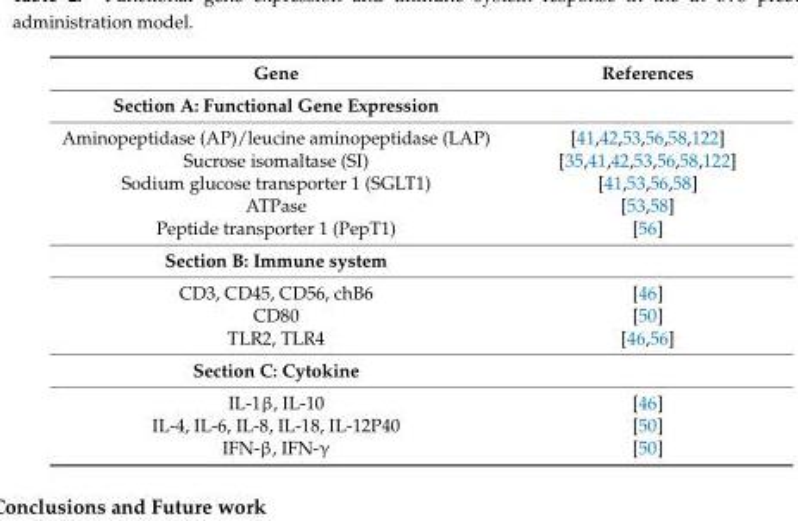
<table><thead><tr><td>Gene</td><td>References</td></tr></thead><tbody><tr><td colspan="2">Section A: Functional Gene Expression</td></tr><tr><td>Aminopeptidase (AP)/leucine aminopeptidase (LAP)</td><td>[41,42,53,56,58,122]</td></tr><tr><td>Sucrose isomaltase (SI)</td><td>[35,41,42,53,56,58,122]</td></tr><tr><td>Sodium glucose transporter 1 (SGLT1)</td><td>[41,53,56,58]</td></tr><tr><td>ATPase</td><td>[53,58]</td></tr><tr><td>Peptide transporter 1 (PepT1)</td><td>[56]</td></tr><tr><td colspan="2">Section B: Immune system</td></tr><tr><td>CD3, CD45, CD56, chB6</td><td>[46]</td></tr><tr><td>CD80</td><td>[50]</td></tr><tr><td>TLR2, TLR4</td><td>[46,56]</td></tr><tr><td colspan="2">Section C: Cytokine</td></tr><tr><td>IL-1β, IL-10</td><td>[46]</td></tr><tr><td>IL-4, IL-6, IL-8, IL-18, IL-12P40</td><td>[50]</td></tr><tr><td>IFN-β, IFN-γ</td><td>[50]</td></tr></tbody></table>